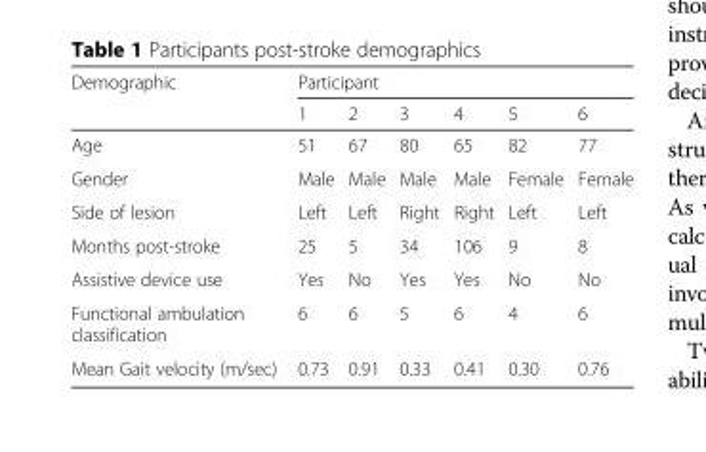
<table><thead><tr><td rowspan="2">Demographic</td><td colspan="6">Participant</td></tr><tr><td>1</td><td>2</td><td>3</td><td>4</td><td>5</td><td>6</td></tr></thead><tbody><tr><td>Age</td><td>51</td><td>67</td><td>80</td><td>65</td><td>82</td><td>77</td></tr><tr><td>Gender</td><td>Male</td><td>Male</td><td>Male</td><td>Male</td><td>Female</td><td>Female</td></tr><tr><td>Side of lesion</td><td>Left</td><td>Left</td><td>Right</td><td>Right</td><td>Left</td><td>Left</td></tr><tr><td>Months post-stroke</td><td>25</td><td>5</td><td>34</td><td>106</td><td>9</td><td>8</td></tr><tr><td>Assistive device use</td><td>Yes</td><td>No</td><td>Yes</td><td>Yes</td><td>No</td><td>No</td></tr><tr><td>Functional ambulation classification</td><td>6</td><td>6</td><td>5</td><td>6</td><td>4</td><td>6</td></tr><tr><td>Mean Gait velocity (m/sec)</td><td>0.73</td><td>0.91</td><td>0.33</td><td>0.41</td><td>0.30</td><td>0.76</td></tr></tbody></table>